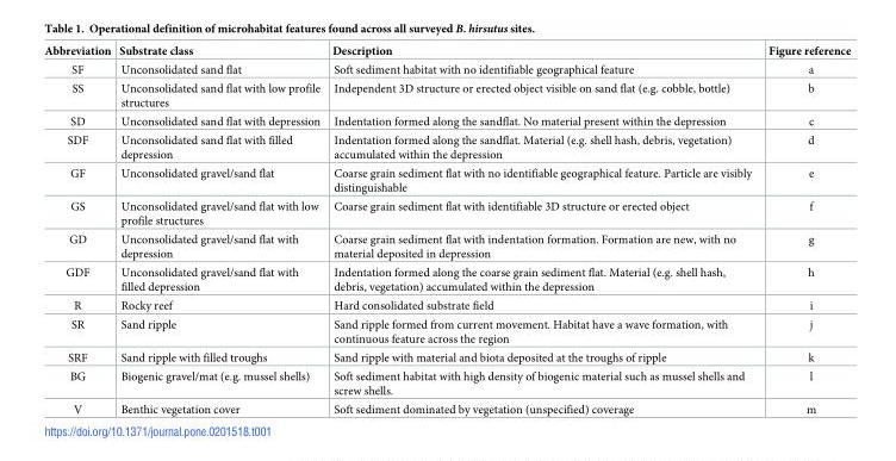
<table><thead><tr><td>Abbreviation</td><td>Substrate class</td><td>Description</td><td>Figure reference</td></tr></thead><tbody><tr><td>SF</td><td>Unconsolidated sand flat</td><td>Soft sediment habitat with no identifiable geographical feature</td><td>a</td></tr><tr><td>SS</td><td>Unconsolidated sand flat with low profile structures</td><td>Independent 3D structure or erected object visible on sand flat (e.g. cobble, bottle)</td><td>b</td></tr><tr><td>SD</td><td>Unconsolidated sand flat with depression</td><td>Indentation formed along the sandflat. No material present within the depression</td><td>c</td></tr><tr><td>SDF</td><td>Unconsolidated sand flat with filled depression</td><td>Indentation formed along the sandflat. Material (e.g. shell hash, debris, vegetation) accumulated within the depression</td><td>d</td></tr><tr><td>GF</td><td>Unconsolidated gravel/sand flat</td><td>Coarse grain sediment flat with no identifiable geographical feature. Particle are visibly distinguishable</td><td>e</td></tr><tr><td>GS</td><td>Unconsolidated gravel/sand flat with low profile structures</td><td>Coarse grain sediment flat with identifiable 3D structure or erected object</td><td>f</td></tr><tr><td>GD</td><td>Unconsolidated gravel/sand flat with depression</td><td>Coarse grain sediment flat with indentation formation. Formation are new, with no material deposited in depression</td><td>g</td></tr><tr><td>GDF</td><td>Unconsolidated gravel/sand flat with filled depression</td><td>Indentation formed along the coarse grain sediment flat. Material (e.g. shell hash, debris, vegetation) accumulated within the depression</td><td>h</td></tr><tr><td>R</td><td>Rocky reef</td><td>Hard consolidated substrate field</td><td>i</td></tr><tr><td>SR</td><td>Sand ripple</td><td>Sand ripple formed from current movement. Habitat have a wave formation, with continuous feature across the region</td><td>j</td></tr><tr><td>SRF</td><td>Sand ripple with filled troughs</td><td>Sand ripple with material and biota deposited at the troughs of ripple</td><td>k</td></tr><tr><td>BG</td><td>Biogenic gravel/mat (e.g. mussel shells)</td><td>Soft sediment habitat with high density of biogenic material such as mussel shells and screw shells.</td><td>l</td></tr><tr><td>V</td><td>Benthic vegetation cover</td><td>Soft sediment dominated by vegetation (unspecified) coverage</td><td>m</td></tr></tbody></table>